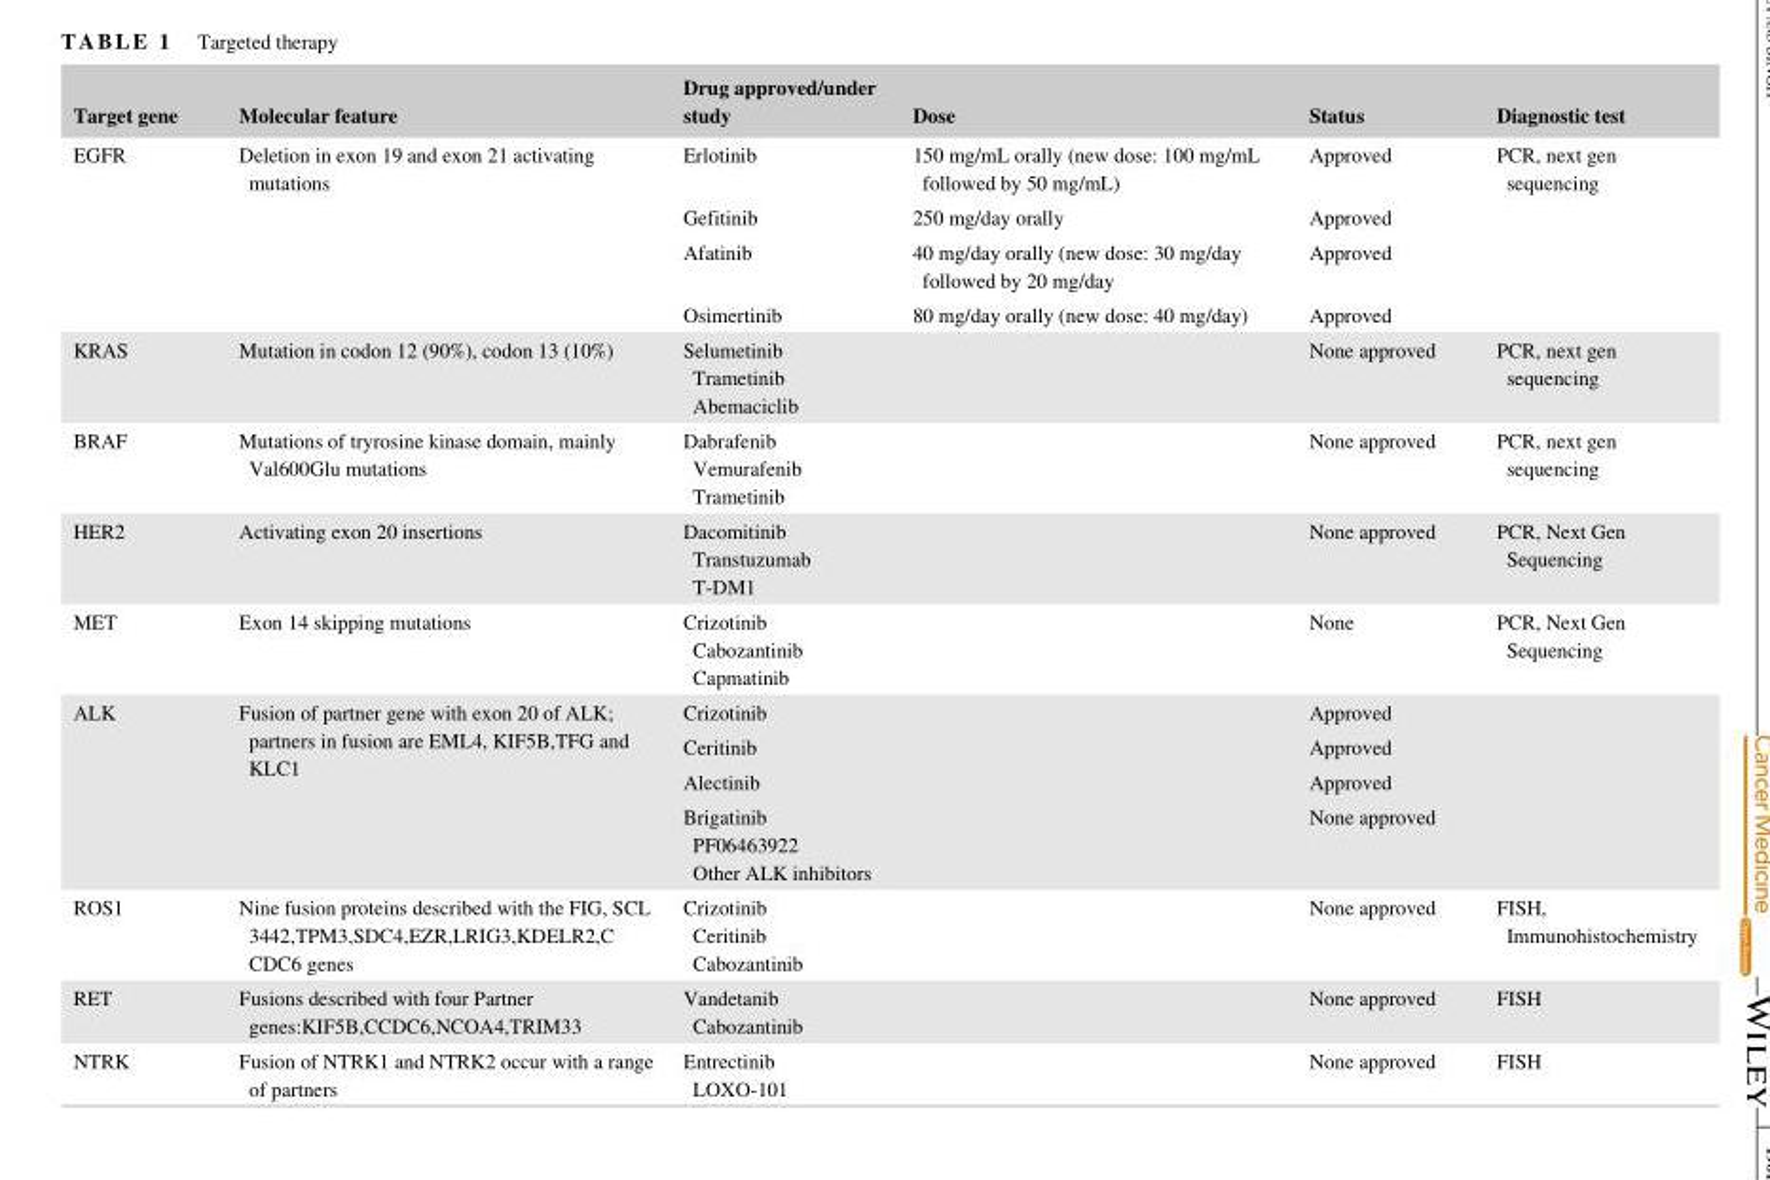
<table><thead><tr><td>Target gene</td><td>Molecular feature</td><td>Drug approved/under study</td><td>Dose</td><td>Status</td><td>Diagnostic test</td></tr></thead><tbody><tr><td rowspan="4">EGFR</td><td rowspan="4">Deletion in exon 19 and exon 21 activating mutations</td><td>Erlotinib</td><td>150 mg/mL orally (new dose: 100 mg/mL followed by 50 mg/mL)</td><td>Approved</td><td rowspan="4">PCR, next gen sequencing</td></tr><tr><td>Gefitinib</td><td>250 mg/day orally</td><td>Approved</td></tr><tr><td>Afatinib</td><td>40 mg/day orally (new dose: 30 mg/day followed by 20 mg/day</td><td>Approved</td></tr><tr><td>Osimertinib</td><td>80 mg/day orally (new dose: 40 mg/day)</td><td>Approved</td></tr><tr><td>KRAS</td><td>Mutation in codon 12 (90%), codon 13 (10%)</td><td>Selumetinib Trametinib Abemaciclib</td><td></td><td>None approved</td><td>PCR, next gen sequencing</td></tr><tr><td>BRAF</td><td>Mutations of tryrosine kinase domain, mainly Val600Glu mutations</td><td>Dabrafenib Vemurafenib Trametinib</td><td></td><td>None approved</td><td>PCR, next gen sequencing</td></tr><tr><td>HER2</td><td>Activating exon 20 insertions</td><td>Dacomitinib Transtuzumab T‐DM1</td><td></td><td>None approved</td><td>PCR, Next Gen Sequencing</td></tr><tr><td>MET</td><td>Exon 14 skipping mutations</td><td>Crizotinib Cabozantinib Capmatinib</td><td></td><td>None</td><td>PCR, Next Gen Sequencing</td></tr><tr><td rowspan="4">ALK</td><td rowspan="4">Fusion of partner gene with exon 20 of ALK; partners in fusion are EML4, KIF5B,TFG and KLC1</td><td>Crizotinib</td><td></td><td>Approved</td><td rowspan="4"></td></tr><tr><td>Ceritinib</td><td></td><td>Approved</td></tr><tr><td>Alectinib</td><td></td><td>Approved</td></tr><tr><td>Brigatinib PF06463922 Other ALK inhibitors</td><td></td><td>None approved</td></tr><tr><td>ROS1</td><td>Nine fusion proteins described with the FIG, SCL 3442,TPM3,SDC4,EZR,LRIG3,KDELR2,C CDC6 genes</td><td>Crizotinib Ceritinib Cabozantinib</td><td></td><td>None approved</td><td>FISH, Immunohistochemistry</td></tr><tr><td>RET</td><td>Fusions described with four Partner genes:KIF5B,CCDC6,NCOA4,TRIM33</td><td>Vandetanib Cabozantinib</td><td></td><td>None approved</td><td>FISH</td></tr><tr><td>NTRK</td><td>Fusion of NTRK1 and NTRK2 occur with a range of partners</td><td>Entrectinib LOXO‐101</td><td></td><td>None approved</td><td>FISH</td></tr></tbody></table>